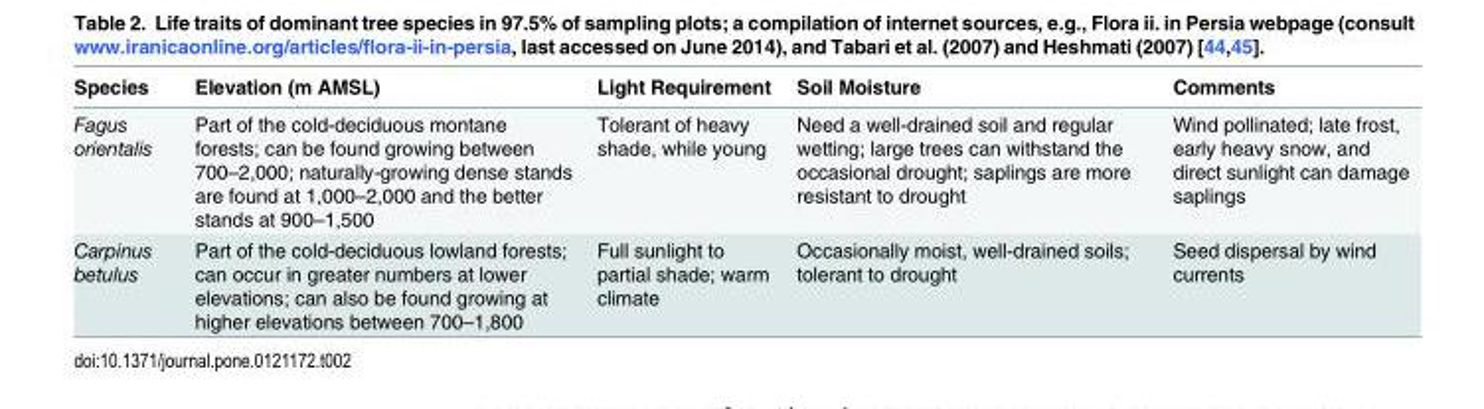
<table><thead><tr><td>Species</td><td>Elevation (m AMSL)</td><td>Light Requirement</td><td>Soil Moisture</td><td>Comments</td></tr></thead><tbody><tr><td>Fagus orientalis</td><td>Part of the cold-deciduous montane forests; can be found growing between 700–2,000; naturally-growing dense stands are found at 1,000–2,000 and the better stands at 900–1,500</td><td>Tolerant of heavy shade, while young</td><td>Need a well-drained soil and regular wetting; large trees can withstand the occasional drought; saplings are more resistant to drought</td><td>Wind pollinated; late frost, early heavy snow, and direct sunlight can damage saplings</td></tr><tr><td>Carpinus betulus</td><td>Part of the cold-deciduous lowland forests; can occur in greater numbers at lower elevations; can also be found growing at higher elevations between 700–1,800</td><td>Full sunlight to partial shade; warm climate</td><td>Occasionally moist, well-drained soils; tolerant to drought</td><td>Seed dispersal by wind currents</td></tr></tbody></table>